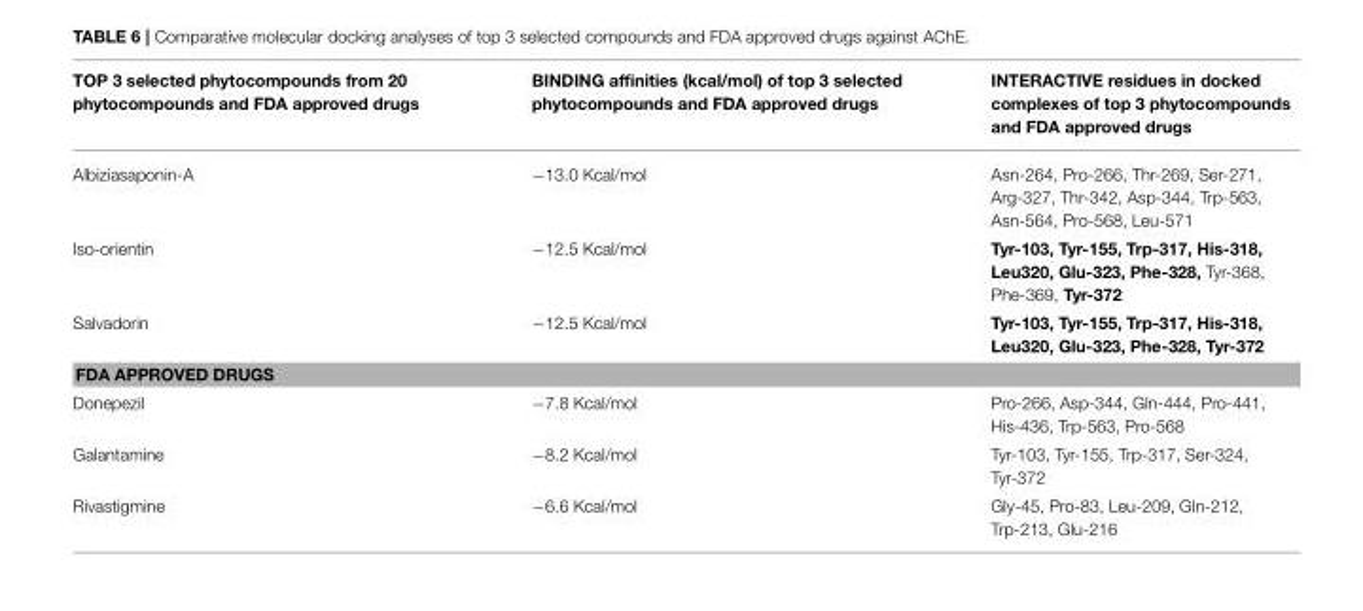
<table><thead><tr><td>TOP 3 selected phytocompounds from 20 phytocompounds and FDA approved drugs</td><td>BINDING affinities (kcal/mol) of top 3 selected phytocompounds and FDA approved drugs</td><td>INTERACTIVE residues in docked complexes of top 3 phytocompounds and FDA approved drugs</td></tr></thead><tbody><tr><td>Albiziasaponin-A</td><td>−13.0 Kcal/mol</td><td>Asn-264, Pro-266, Thr-269, Ser-271, Arg-327, Thr-342, Asp-344, Trp-563, Asn-564, Pro-568, Leu-571</td></tr><tr><td>Iso-orientin</td><td>−12.5 Kcal/mol</td><td>Tyr-103, Tyr-155, Trp-317, His-318, Leu320, Glu-323, Phe-328, Tyr-368, Phe-369, Tyr-372</td></tr><tr><td>Salvadorin</td><td>−12.5 Kcal/mol</td><td>Tyr-103, Tyr-155, Trp-317, His-318, Leu320, Glu-323, Phe-328, Tyr-372</td></tr><tr><td colspan="3">FDA APPROVED DRUGS</td></tr><tr><td>Donepezil</td><td>−7.8 Kcal/mol</td><td>Pro-266, Asp-344, Gln-444, Pro-441, His-436, Trp-563, Pro-568</td></tr><tr><td>Galantamine</td><td>−8.2 Kcal/mol</td><td>Tyr-103, Tyr-155, Trp-317, Ser-324, Tyr-372</td></tr><tr><td>Rivastigmine</td><td>−6.6 Kcal/mol</td><td>Gly-45, Pro-83, Leu-209, Gln-212, Trp-213, Glu-216</td></tr></tbody></table>